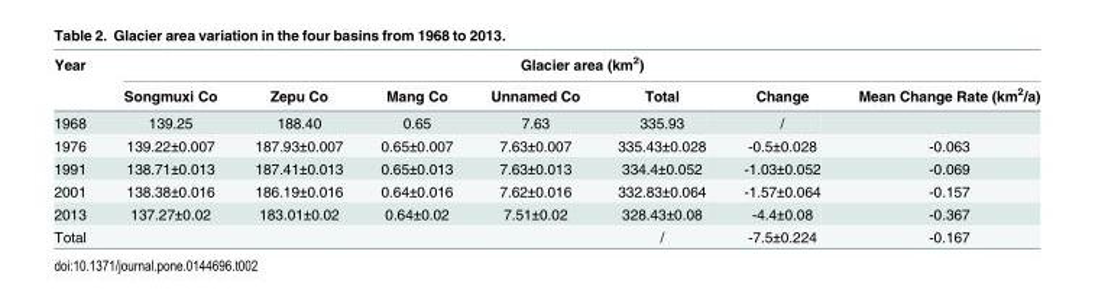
<table><thead><tr><td rowspan="2">Year</td><td colspan="7">Glacier area (km<sup>2</sup>)</td></tr><tr><td>Songmuxi Co</td><td>Zepu Co</td><td>Mang Co</td><td>Unnamed Co</td><td>Total</td><td>Change</td><td>Mean Change Rate (km<sup>2</sup>/a)</td></tr></thead><tbody><tr><td>1968</td><td>139.25</td><td>188.40</td><td>0.65</td><td>7.63</td><td>335.93</td><td>/</td><td></td></tr><tr><td>1976</td><td>139.22±0.007</td><td>187.93±0.007</td><td>0.65±0.007</td><td>7.63±0.007</td><td>335.43±0.028</td><td>-0.5±0.028</td><td>-0.063</td></tr><tr><td>1991</td><td>138.71±0.013</td><td>187.41±0.013</td><td>0.65±0.013</td><td>7.63±0.013</td><td>334.4±0.052</td><td>-1.03±0.052</td><td>-0.069</td></tr><tr><td>2001</td><td>138.38±0.016</td><td>186.19±0.016</td><td>0.64±0.016</td><td>7.62±0.016</td><td>332.83±0.064</td><td>-1.57±0.064</td><td>-0.157</td></tr><tr><td>2013</td><td>137.27±0.02</td><td>183.01±0.02</td><td>0.64±0.02</td><td>7.51±0.02</td><td>328.43±0.08</td><td>-4.4±0.08</td><td>-0.367</td></tr><tr><td>Total</td><td></td><td></td><td></td><td></td><td>/</td><td>-7.5±0.224</td><td>-0.167</td></tr></tbody></table>